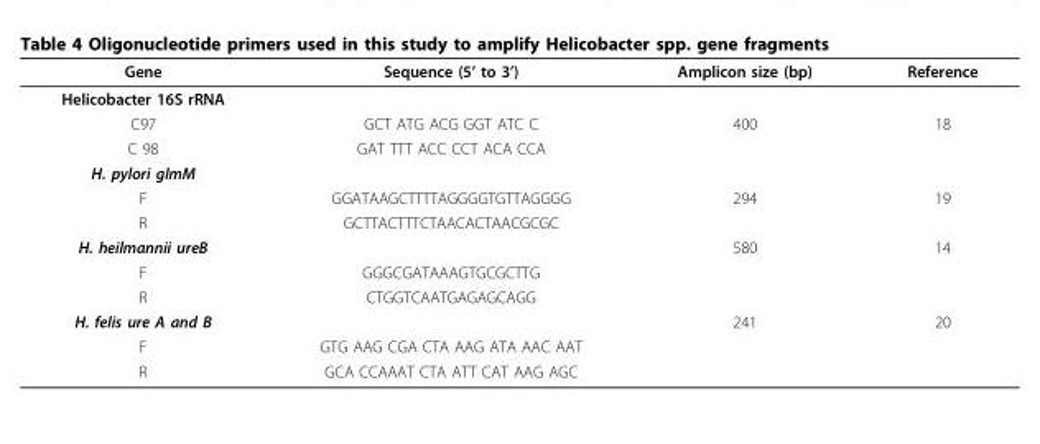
<table><thead><tr><td>Gene</td><td>Sequence (5’ to 3’)</td><td>Amplicon size (bp)</td><td>Reference</td></tr></thead><tbody><tr><td colspan="4">Helicobacter 16S rRNA</td></tr><tr><td>C97</td><td>GCT ATG ACG GGT ATC C</td><td>400</td><td>18</td></tr><tr><td>C 98</td><td>GAT TTT ACC CCT ACA CCA</td><td></td><td></td></tr><tr><td colspan="4">H. pylori glmM</td></tr><tr><td>F</td><td>GGATAAGCTTTTAGGGGTGTTAGGGG</td><td>294</td><td>19</td></tr><tr><td>R</td><td>GCTTACTTTCTAACACTAACGCGC</td><td></td><td></td></tr><tr><td>H. heilmannii ureB</td><td></td><td>580</td><td>14</td></tr><tr><td>F</td><td>GGGCGATAAAGTGCGCTTG</td><td></td><td></td></tr><tr><td>R</td><td>CTGGTCAATGAGAGCAGG</td><td></td><td></td></tr><tr><td>H. felis ure A and B</td><td></td><td>241</td><td>20</td></tr><tr><td>F</td><td>GTG AAG CGA CTA AAG ATA AAC AAT</td><td></td><td></td></tr><tr><td>R</td><td>GCA CCAAAT CTA ATT CAT AAG AGC</td><td></td><td></td></tr></tbody></table>